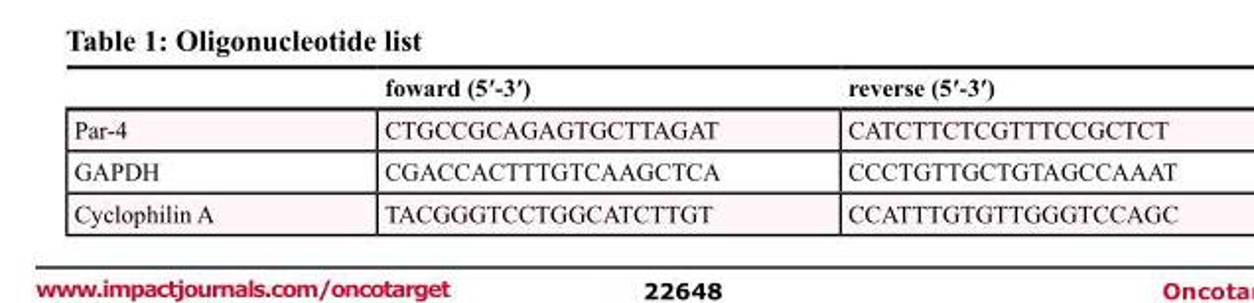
<table><thead><tr><td></td><td>foward (5′-3′)</td><td>reverse (5′-3′)</td></tr></thead><tbody><tr><td>Par-4</td><td>CTGCCGCAGAGTGCTTAGAT</td><td>CATCTTCTCGTTTCCGCTCT</td></tr><tr><td>GAPDH</td><td>CGACCACTTTGTCAAGCTCA</td><td>CCCTGTTGCTGTAGCCAAAT</td></tr><tr><td>Cyclophilin A</td><td>TACGGGTCCTGGCATCTTGT</td><td>CCATTTGTGTTGGGTCCAGC</td></tr></tbody></table>